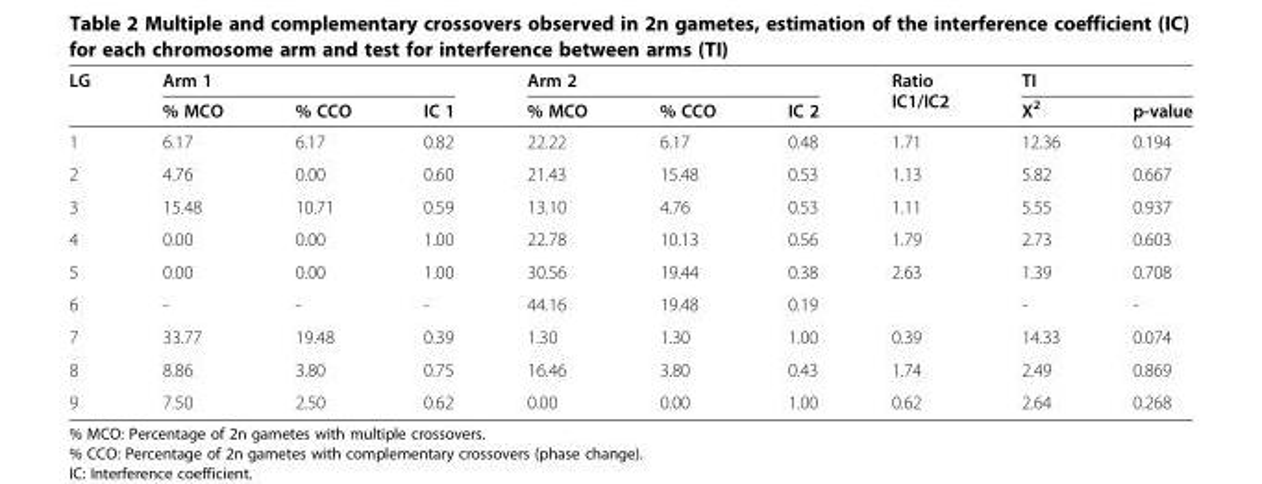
<table><thead><tr><td rowspan="2">LG</td><td colspan="3">Arm 1</td><td colspan="3">Arm 2</td><td rowspan="2">Ratio IC1/IC2</td><td colspan="2">TI</td></tr><tr><td>% MCO</td><td>% CCO</td><td>IC 1</td><td>% MCO</td><td>% CCO</td><td>IC 2</td><td>X<sup>2</sup></td><td>p-value</td></tr></thead><tbody><tr><td>1</td><td>6.17</td><td>6.17</td><td>0.82</td><td>22.22</td><td>6.17</td><td>0.48</td><td>1.71</td><td>12.36</td><td>0.194</td></tr><tr><td>2</td><td>4.76</td><td>0.00</td><td>0.60</td><td>21.43</td><td>15.48</td><td>0.53</td><td>1.13</td><td>5.82</td><td>0.667</td></tr><tr><td>3</td><td>15.48</td><td>10.71</td><td>0.59</td><td>13.10</td><td>4.76</td><td>0.53</td><td>1.11</td><td>5.55</td><td>0.937</td></tr><tr><td>4</td><td>0.00</td><td>0.00</td><td>1.00</td><td>22.78</td><td>10.13</td><td>0.56</td><td>1.79</td><td>2.73</td><td>0.603</td></tr><tr><td>5</td><td>0.00</td><td>0.00</td><td>1.00</td><td>30.56</td><td>19.44</td><td>0.38</td><td>2.63</td><td>1.39</td><td>0.708</td></tr><tr><td>6</td><td>-</td><td>-</td><td>-</td><td>44.16</td><td>19.48</td><td>0.19</td><td></td><td>-</td><td>-</td></tr><tr><td>7</td><td>33.77</td><td>19.48</td><td>0.39</td><td>1.30</td><td>1.30</td><td>1.00</td><td>0.39</td><td>14.33</td><td>0.074</td></tr><tr><td>8</td><td>8.86</td><td>3.80</td><td>0.75</td><td>16.46</td><td>3.80</td><td>0.43</td><td>1.74</td><td>2.49</td><td>0.869</td></tr><tr><td>9</td><td>7.50</td><td>2.50</td><td>0.62</td><td>0.00</td><td>0.00</td><td>1.00</td><td>0.62</td><td>2.64</td><td>0.268</td></tr></tbody></table>